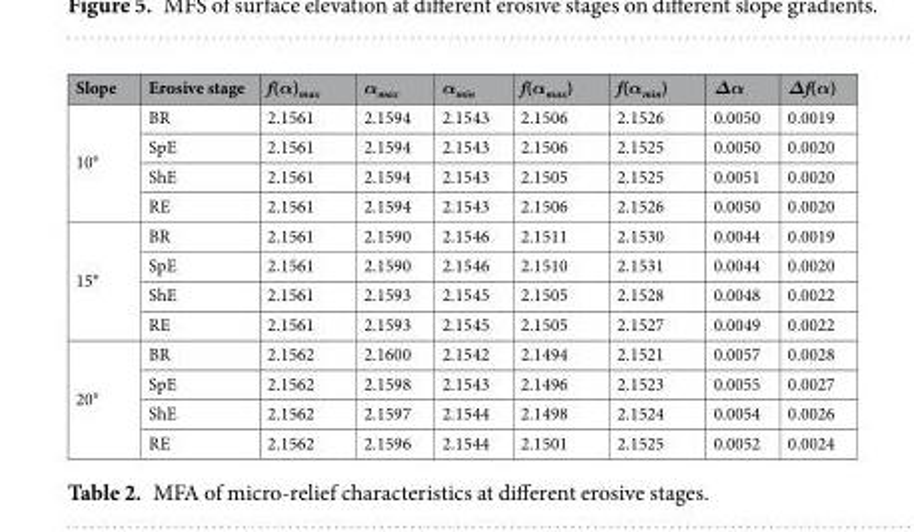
<table><thead><tr><td>Slope</td><td>Erosive stage</td><td>f(α)<sub>max</sub></td><td>α<sub>max</sub></td><td>α<sub>min</sub></td><td>f(α<sub>max</sub>)</td><td>f(α<sub>min</sub>)</td><td>Δα</td><td>Δf(α)</td></tr></thead><tbody><tr><td rowspan="4">10°</td><td>BR</td><td>2.1561</td><td>2.1594</td><td>2.1543</td><td>2.1506</td><td>2.1526</td><td>0.0050</td><td>0.0019</td></tr><tr><td>SpE</td><td>2.1561</td><td>2.1594</td><td>2.1543</td><td>2.1506</td><td>2.1525</td><td>0.0050</td><td>0.0020</td></tr><tr><td>ShE</td><td>2.1561</td><td>2.1594</td><td>2.1543</td><td>2.1505</td><td>2.1525</td><td>0.0051</td><td>0.0020</td></tr><tr><td>RE</td><td>2.1561</td><td>2.1594</td><td>2.1543</td><td>2.1506</td><td>2.1526</td><td>0.0050</td><td>0.0020</td></tr><tr><td rowspan="4">15°</td><td>BR</td><td>2.1561</td><td>2.1590</td><td>2.1546</td><td>2.1511</td><td>2.1530</td><td>0.0044</td><td>0.0019</td></tr><tr><td>SpE</td><td>2.1561</td><td>2.1590</td><td>2.1546</td><td>2.1510</td><td>2.1531</td><td>0.0044</td><td>0.0020</td></tr><tr><td>ShE</td><td>2.1561</td><td>2.1593</td><td>2.1545</td><td>2.1505</td><td>2.1528</td><td>0.0048</td><td>0.0022</td></tr><tr><td>RE</td><td>2.1561</td><td>2.1593</td><td>2.1545</td><td>2.1505</td><td>2.1527</td><td>0.0049</td><td>0.0022</td></tr><tr><td rowspan="4">20°</td><td>BR</td><td>2.1562</td><td>2.1600</td><td>2.1542</td><td>2.1494</td><td>2.1521</td><td>0.0057</td><td>0.0028</td></tr><tr><td>SpE</td><td>2.1562</td><td>2.1598</td><td>2.1543</td><td>2.1496</td><td>2.1523</td><td>0.0055</td><td>0.0027</td></tr><tr><td>ShE</td><td>2.1562</td><td>2.1597</td><td>2.1544</td><td>2.1498</td><td>2.1524</td><td>0.0054</td><td>0.0026</td></tr><tr><td>RE</td><td>2.1562</td><td>2.1596</td><td>2.1544</td><td>2.1501</td><td>2.1525</td><td>0.0052</td><td>0.0024</td></tr></tbody></table>